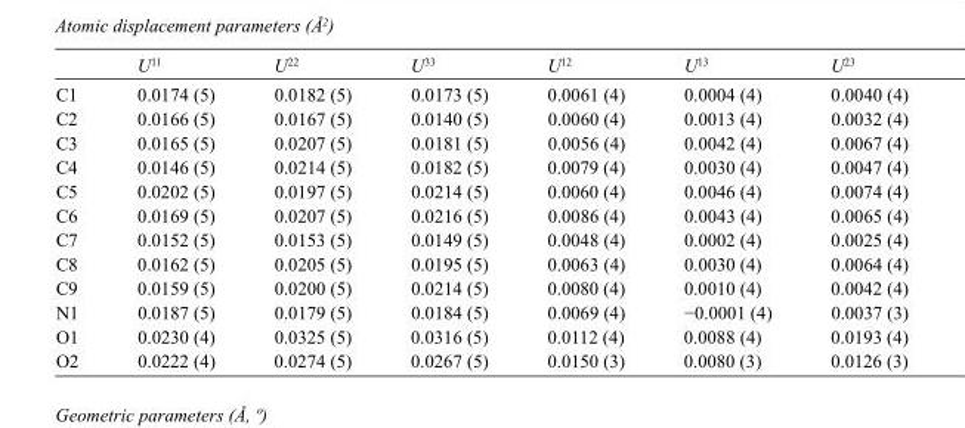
<table><thead><tr><td></td><td>U<sup>11</sup></td><td>U<sup>22</sup></td><td>U<sup>33</sup></td><td>U<sup>12</sup></td><td>U<sup>13</sup></td><td>U<sup>23</sup></td></tr></thead><tbody><tr><td>C1</td><td>0.0174 (5)</td><td>0.0182 (5)</td><td>0.0173 (5)</td><td>0.0061 (4)</td><td>0.0004 (4)</td><td>0.0040 (4)</td></tr><tr><td>C2</td><td>0.0166 (5)</td><td>0.0167 (5)</td><td>0.0140 (5)</td><td>0.0060 (4)</td><td>0.0013 (4)</td><td>0.0032 (4)</td></tr><tr><td>C3</td><td>0.0165 (5)</td><td>0.0207 (5)</td><td>0.0181 (5)</td><td>0.0056 (4)</td><td>0.0042 (4)</td><td>0.0067 (4)</td></tr><tr><td>C4</td><td>0.0146 (5)</td><td>0.0214 (5)</td><td>0.0182 (5)</td><td>0.0079 (4)</td><td>0.0030 (4)</td><td>0.0047 (4)</td></tr><tr><td>C5</td><td>0.0202 (5)</td><td>0.0197 (5)</td><td>0.0214 (5)</td><td>0.0060 (4)</td><td>0.0046 (4)</td><td>0.0074 (4)</td></tr><tr><td>C6</td><td>0.0169 (5)</td><td>0.0207 (5)</td><td>0.0216 (5)</td><td>0.0086 (4)</td><td>0.0043 (4)</td><td>0.0065 (4)</td></tr><tr><td>C7</td><td>0.0152 (5)</td><td>0.0153 (5)</td><td>0.0149 (5)</td><td>0.0048 (4)</td><td>0.0002 (4)</td><td>0.0025 (4)</td></tr><tr><td>C8</td><td>0.0162 (5)</td><td>0.0205 (5)</td><td>0.0195 (5)</td><td>0.0063 (4)</td><td>0.0030 (4)</td><td>0.0064 (4)</td></tr><tr><td>C9</td><td>0.0159 (5)</td><td>0.0200 (5)</td><td>0.0214 (5)</td><td>0.0080 (4)</td><td>0.0010 (4)</td><td>0.0042 (4)</td></tr><tr><td>N1</td><td>0.0187 (5)</td><td>0.0179 (5)</td><td>0.0184 (5)</td><td>0.0069 (4)</td><td>−0.0001 (4)</td><td>0.0037 (3)</td></tr><tr><td>O1</td><td>0.0230 (4)</td><td>0.0325 (5)</td><td>0.0316 (5)</td><td>0.0112 (4)</td><td>0.0088 (4)</td><td>0.0193 (4)</td></tr><tr><td>O2</td><td>0.0222 (4)</td><td>0.0274 (5)</td><td>0.0267 (5)</td><td>0.0150 (3)</td><td>0.0080 (3)</td><td>0.0126 (3)</td></tr></tbody></table>